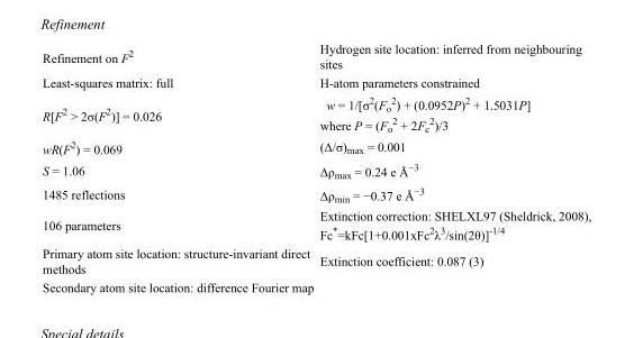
<table><tbody><tr><td>Refinement on F<sup>2</sup></td><td>Hydrogen site location: inferred from neighbouring sites</td></tr><tr><td>Least-squares matrix: full</td><td>H-atom parameters constrained</td></tr><tr><td>R[F<sup>2</sup> &gt; 2σ(F<sup>2</sup>)] = 0.026</td><td>w = 1/[σ<sup>2</sup>(F<sub>o</sub> <sup>2</sup>) + (0.0952P)<sup>2</sup> + 1.5031P] where P = (F<sub>o</sub> <sup>2</sup> + 2F<sub>c</sub> <sup>2</sup>)/3</td></tr><tr><td>wR(F<sup>2</sup>) = 0.069</td><td>(Δ/σ)<sub>max</sub> = 0.001</td></tr><tr><td>S = 1.06</td><td>Δρ<sub>max</sub> = 0.24 e Å<sup>−3</sup></td></tr><tr><td>1485 reflections</td><td>Δρ<sub>min</sub> = −0.37 e Å<sup>−3</sup></td></tr><tr><td>106 parameters</td><td>Extinction correction: SHELXL97 (Sheldrick, 2008), Fc*=kFc[1+0.001xFc<sup>2</sup>λ<sup>3</sup>/sin(2θ)]<sup>-1/4</sup></td></tr><tr><td>Primary atom site location: structure-invariant direct methods</td><td>Extinction coefficient: 0.087 (3)</td></tr><tr><td>Secondary atom site location: difference Fourier map</td><td></td></tr></tbody></table>